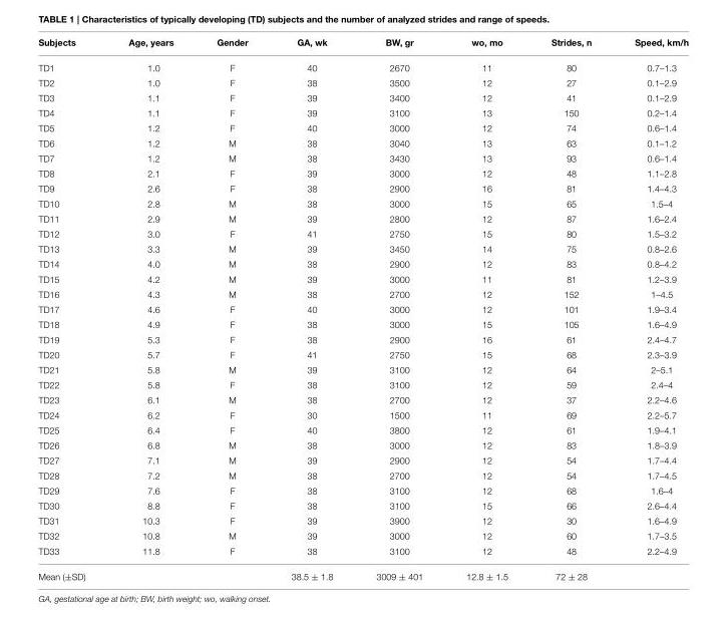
<table><thead><tr><td>Subjects</td><td>Age, years</td><td>Gender</td><td>GA, wk</td><td>BW, gr</td><td>wo, mo</td><td>Strides, n</td><td>Speed, km/h</td></tr></thead><tbody><tr><td>TD1</td><td>1.0</td><td>F</td><td>40</td><td>2670</td><td>11</td><td>80</td><td>0.7–1.3</td></tr><tr><td>TD2</td><td>1.0</td><td>F</td><td>38</td><td>3500</td><td>12</td><td>27</td><td>0.1–2.9</td></tr><tr><td>TD3</td><td>1.1</td><td>F</td><td>39</td><td>3400</td><td>12</td><td>41</td><td>0.1–2.9</td></tr><tr><td>TD4</td><td>1.1</td><td>F</td><td>39</td><td>3100</td><td>13</td><td>150</td><td>0.2–1.4</td></tr><tr><td>TD5</td><td>1.2</td><td>F</td><td>40</td><td>3000</td><td>12</td><td>74</td><td>0.6–1.4</td></tr><tr><td>TD6</td><td>1.2</td><td>M</td><td>38</td><td>3040</td><td>13</td><td>63</td><td>0.1–1.2</td></tr><tr><td>TD7</td><td>1.2</td><td>M</td><td>38</td><td>3430</td><td>13</td><td>93</td><td>0.6–1.4</td></tr><tr><td>TD8</td><td>2.1</td><td>F</td><td>39</td><td>3000</td><td>12</td><td>48</td><td>1.1–2.8</td></tr><tr><td>TD9</td><td>2.6</td><td>F</td><td>38</td><td>2900</td><td>16</td><td>81</td><td>1.4–4.3</td></tr><tr><td>TD10</td><td>2.8</td><td>M</td><td>38</td><td>3000</td><td>15</td><td>65</td><td>1.5–4</td></tr><tr><td>TD11</td><td>2.9</td><td>M</td><td>39</td><td>2800</td><td>12</td><td>87</td><td>1.6–2.4</td></tr><tr><td>TD12</td><td>3.0</td><td>F</td><td>41</td><td>2750</td><td>15</td><td>80</td><td>1.5–3.2</td></tr><tr><td>TD13</td><td>3.3</td><td>M</td><td>39</td><td>3450</td><td>14</td><td>75</td><td>0.8–2.6</td></tr><tr><td>TD14</td><td>4.0</td><td>M</td><td>38</td><td>2900</td><td>12</td><td>83</td><td>0.8–4.2</td></tr><tr><td>TD15</td><td>4.2</td><td>M</td><td>39</td><td>3000</td><td>11</td><td>81</td><td>1.2–3.9</td></tr><tr><td>TD16</td><td>4.3</td><td>M</td><td>38</td><td>2700</td><td>12</td><td>152</td><td>1–4.5</td></tr><tr><td>TD17</td><td>4.6</td><td>F</td><td>40</td><td>3000</td><td>12</td><td>101</td><td>1.9–3.4</td></tr><tr><td>TD18</td><td>4.9</td><td>F</td><td>38</td><td>3000</td><td>15</td><td>105</td><td>1.6–4.9</td></tr><tr><td>TD19</td><td>5.3</td><td>F</td><td>38</td><td>2900</td><td>16</td><td>61</td><td>2.4–4.7</td></tr><tr><td>TD20</td><td>5.7</td><td>F</td><td>41</td><td>2750</td><td>15</td><td>68</td><td>2.3–3.9</td></tr><tr><td>TD21</td><td>5.8</td><td>M</td><td>39</td><td>3100</td><td>12</td><td>64</td><td>2–5.1</td></tr><tr><td>TD22</td><td>5.8</td><td>F</td><td>38</td><td>3100</td><td>12</td><td>59</td><td>2.4–4</td></tr><tr><td>TD23</td><td>6.1</td><td>M</td><td>38</td><td>2700</td><td>12</td><td>37</td><td>2.2–4.6</td></tr><tr><td>TD24</td><td>6.2</td><td>F</td><td>30</td><td>1500</td><td>11</td><td>69</td><td>2.2–5.7</td></tr><tr><td>TD25</td><td>6.4</td><td>F</td><td>40</td><td>3800</td><td>12</td><td>61</td><td>1.9–4.1</td></tr><tr><td>TD26</td><td>6.8</td><td>M</td><td>38</td><td>3000</td><td>12</td><td>83</td><td>1.8–3.9</td></tr><tr><td>TD27</td><td>7.1</td><td>M</td><td>39</td><td>2900</td><td>12</td><td>54</td><td>1.7–4.4</td></tr><tr><td>TD28</td><td>7.2</td><td>M</td><td>38</td><td>2700</td><td>12</td><td>54</td><td>1.7–4.5</td></tr><tr><td>TD29</td><td>7.6</td><td>F</td><td>38</td><td>3100</td><td>12</td><td>68</td><td>1.6–4</td></tr><tr><td>TD30</td><td>8.8</td><td>F</td><td>38</td><td>3100</td><td>15</td><td>66</td><td>2.6–4.4</td></tr><tr><td>TD31</td><td>10.3</td><td>F</td><td>39</td><td>3900</td><td>12</td><td>30</td><td>1.6–4.9</td></tr><tr><td>TD32</td><td>10.8</td><td>M</td><td>39</td><td>3000</td><td>12</td><td>60</td><td>1.7–3.5</td></tr><tr><td>TD33</td><td>11.8</td><td>F</td><td>38</td><td>3100</td><td>12</td><td>48</td><td>2.2–4.9</td></tr><tr><td>Mean (±SD)</td><td></td><td></td><td>38.5 ± 1.8</td><td>3009 ± 401</td><td>12.8 ± 1.5</td><td>72 ± 28</td><td></td></tr></tbody></table>